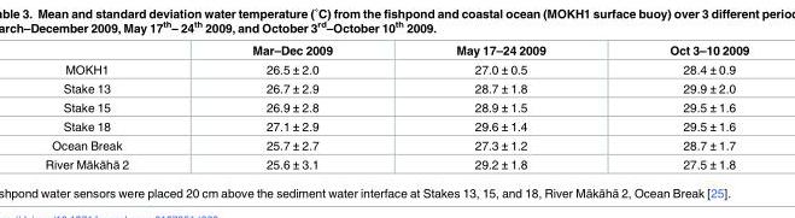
<table><thead><tr><td></td><td>Mar–Dec 2009</td><td>May 17–24 2009</td><td>Oct 3–10 2009</td></tr></thead><tbody><tr><td>MOKH1</td><td>26.5 ± 2.0</td><td>27.0 ± 0.5</td><td>28.4 ± 0.9</td></tr><tr><td>Stake 13</td><td>26.7 ± 2.9</td><td>28.7 ± 1.8</td><td>29.9 ± 2.0</td></tr><tr><td>Stake 15</td><td>26.9 ± 2.8</td><td>28.9 ± 1.5</td><td>29.5 ± 1.6</td></tr><tr><td>Stake 18</td><td>27.1 ± 2.9</td><td>29.6 ± 1.4</td><td>29.5 ± 1.6</td></tr><tr><td>Ocean Break</td><td>25.7 ± 2.7</td><td>27.3 ± 1.2</td><td>28.7 ± 1.7</td></tr><tr><td>River Mākāhā 2</td><td>25.6 ± 3.1</td><td>29.2 ± 1.8</td><td>27.5 ± 1.8</td></tr></tbody></table>